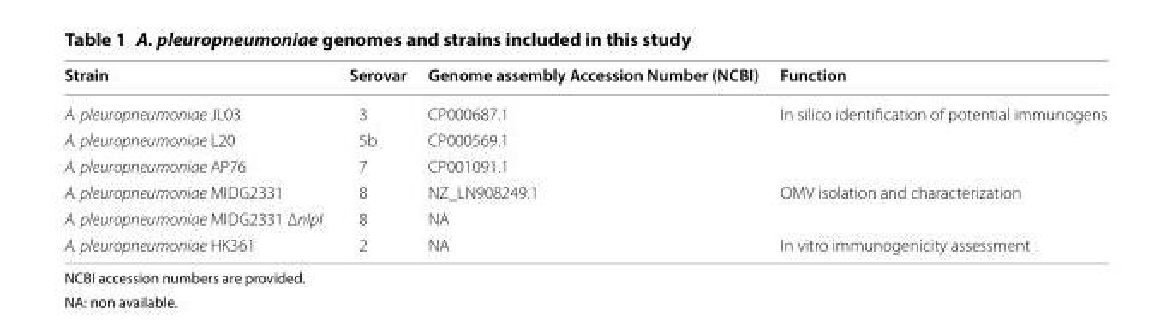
<table><thead><tr><td>Strain</td><td>Serovar</td><td>Genome assembly Accession Number (NCBI)</td><td>Function</td></tr></thead><tbody><tr><td>A. pleuropneumoniae JL03</td><td>3</td><td>CP000687.1</td><td rowspan="3">In silico identification of potential immunogens</td></tr><tr><td>A. pleuropneumoniae L20</td><td>5b</td><td>CP000569.1</td></tr><tr><td>A. pleuropneumoniae AP76</td><td>7</td><td>CP001091.1</td></tr><tr><td>A. pleuropneumoniae MIDG2331</td><td>8</td><td>NZ_LN908249.1</td><td rowspan="2">OMV isolation and characterization</td></tr><tr><td>A. pleuropneumoniae MIDG2331 ΔnlpI</td><td>8</td><td>NA</td></tr><tr><td>A. pleuropneumoniae HK361</td><td>2</td><td>NA</td><td>In vitro immunogenicity assessment</td></tr></tbody></table>